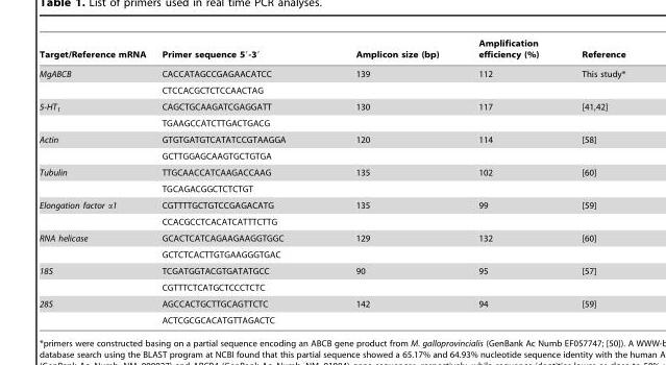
<table><thead><tr><td>Target/Reference mRNA</td><td>Primer sequence 5′-3′</td><td>Amplicon size (bp)</td><td>Amplification efficiency (%)</td><td>Reference</td></tr></thead><tbody><tr><td rowspan="2">MgABCB</td><td>CACCATAGCCGAGAACATCC</td><td>139</td><td>112</td><td>This study*</td></tr><tr><td>CTCCACGCTCTCCAACTAG</td><td></td><td></td><td></td></tr><tr><td rowspan="2">5-HT<sub>1</sub></td><td>CAGCTGCAAGATCGAGGATT</td><td>130</td><td>117</td><td>[41,42]</td></tr><tr><td>TGAAGCCATCTTGACTGACG</td><td></td><td></td><td></td></tr><tr><td rowspan="2">Actin</td><td>GTGTGATGTCATATCCGTAAGGA</td><td>120</td><td>114</td><td>[58]</td></tr><tr><td>GCTTGGAGCAAGTGCTGTGA</td><td></td><td></td><td></td></tr><tr><td rowspan="2">Tubulin</td><td>TTGCAACCATCAAGACCAAG</td><td>135</td><td>102</td><td>[60]</td></tr><tr><td>TGCAGACGGCTCTCTGT</td><td></td><td></td><td></td></tr><tr><td rowspan="2">Elongation factor α1</td><td>CGTTTTGCTGTCCGAGACATG</td><td>135</td><td>99</td><td>[59]</td></tr><tr><td>CCACGCCTCACATCATTTCTTG</td><td></td><td></td><td></td></tr><tr><td rowspan="2">RNA helicase</td><td>GCACTCATCAGAAGAAGGTGGC</td><td>129</td><td>132</td><td>[60]</td></tr><tr><td>GCTCTCACTTGTGAAGGGTGAC</td><td></td><td></td><td></td></tr><tr><td rowspan="2">18S</td><td>TCGATGGTACGTGATATGCC</td><td>90</td><td>95</td><td>[57]</td></tr><tr><td>CGTTTCTCATGCTCCCTCTC</td><td></td><td></td><td></td></tr><tr><td rowspan="2">28S</td><td>AGCCACTGCTTGCAGTTCTC</td><td>142</td><td>94</td><td>[59]</td></tr><tr><td>ACTCGCGCACATGTTAGACTC</td><td></td><td></td><td></td></tr></tbody></table>